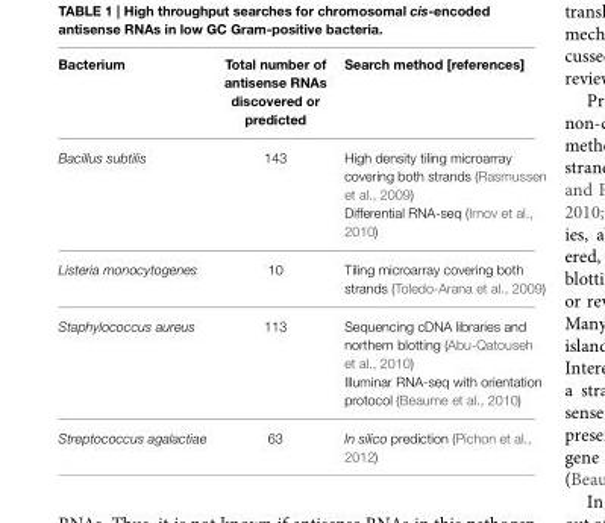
<table><thead><tr><td>Bacterium</td><td>Total number of antisense RNAs discovered or predicted</td><td>Search method [references]</td></tr></thead><tbody><tr><td>Bacillus subtilis</td><td>143</td><td>High density tiling microarray covering both strands (Rasmussen et al., 2009) Differential RNA-seq (Irnov et al., 2010)</td></tr><tr><td>Listeria monocytogenes</td><td>10</td><td>Tiling microarray covering both strands (Toledo-Arana et al., 2009)</td></tr><tr><td>Staphylococcus aureus</td><td>113</td><td>Sequencing cDNA libraries and northern blotting (Abu-Qatouseh et al., 2010) Illuminar RNA-seq with orientation protocol (Beaume et al., 2010)</td></tr><tr><td>Streptococcus agalactiae</td><td>63</td><td>In silico prediction (Pichon et al., 2012)</td></tr></tbody></table>